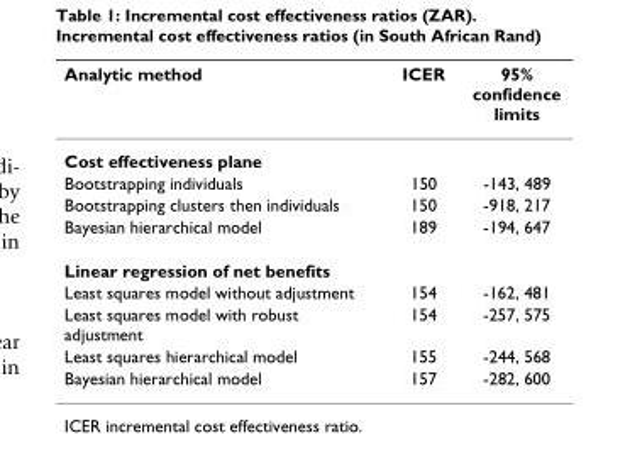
<table><thead><tr><td>Analytic method</td><td>ICER</td><td>95% confidence limits</td></tr></thead><tbody><tr><td colspan="3">Cost effectiveness plane</td></tr><tr><td>Bootstrapping individuals</td><td>150</td><td>-143, 489</td></tr><tr><td>Bootstrapping clusters then individuals</td><td>150</td><td>-918, 217</td></tr><tr><td>Bayesian hierarchical model</td><td>189</td><td>-194, 647</td></tr><tr><td colspan="3">Linear regression of net benefits</td></tr><tr><td>Least squares model without adjustment</td><td>154</td><td>-162, 481</td></tr><tr><td>Least squares model with robust adjustment</td><td>154</td><td>-257, 575</td></tr><tr><td>Least squares hierarchical model</td><td>155</td><td>-244, 568</td></tr><tr><td>Bayesian hierarchical model</td><td>157</td><td>-282, 600</td></tr></tbody></table>